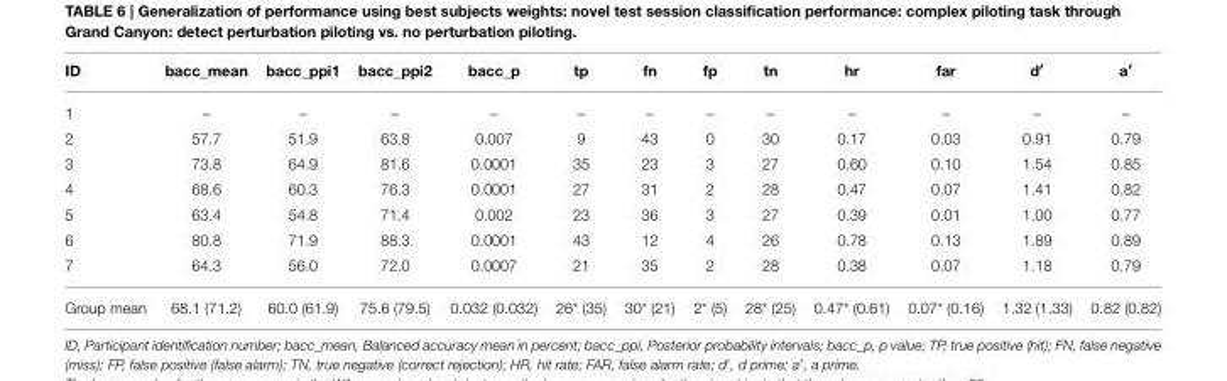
<table><thead><tr><td>ID</td><td>bacc_mean</td><td>bacc_ppi1</td><td>bacc_ppi2</td><td>bacc_p</td><td>tp</td><td>fn</td><td>fp</td><td>tn</td><td>hr</td><td>far</td><td>d′</td><td>a′</td></tr></thead><tbody><tr><td>1</td><td>–</td><td>–</td><td>–</td><td>–</td><td>–</td><td>–</td><td>–</td><td>–</td><td>–</td><td>–</td><td>–</td><td>–</td></tr><tr><td>2</td><td>57.7</td><td>51.9</td><td>63.8</td><td>0.007</td><td>9</td><td>43</td><td>0</td><td>30</td><td>0.17</td><td>0.03</td><td>0.91</td><td>0.79</td></tr><tr><td>3</td><td>73.8</td><td>64.9</td><td>81.6</td><td>0.0001</td><td>35</td><td>23</td><td>3</td><td>27</td><td>0.60</td><td>0.10</td><td>1.54</td><td>0.85</td></tr><tr><td>4</td><td>68.6</td><td>60.3</td><td>76.3</td><td>0.0001</td><td>27</td><td>31</td><td>2</td><td>28</td><td>0.47</td><td>0.07</td><td>1.41</td><td>0.82</td></tr><tr><td>5</td><td>63.4</td><td>54.8</td><td>71.4</td><td>0.002</td><td>23</td><td>36</td><td>3</td><td>27</td><td>0.39</td><td>0.01</td><td>1.00</td><td>0.77</td></tr><tr><td>6</td><td>80.8</td><td>71.9</td><td>88.3</td><td>0.0001</td><td>43</td><td>12</td><td>4</td><td>26</td><td>0.78</td><td>0.13</td><td>1.89</td><td>0.89</td></tr><tr><td>7</td><td>64.3</td><td>56.0</td><td>72.0</td><td>0.0007</td><td>21</td><td>35</td><td>2</td><td>28</td><td>0.38</td><td>0.07</td><td>1.18</td><td>0.79</td></tr><tr><td>Group mean</td><td>68.1 (71.2)</td><td>60.0 (61.9)</td><td>75.6 (79.5)</td><td>0.032 (0.032)</td><td>26* (35)</td><td>30* (21)</td><td>2* (5)</td><td>28* (25)</td><td>0.47* (0.61)</td><td>0.07* (0.16)</td><td>1.32 (1.33)</td><td>0.82 (0.82)</td></tr></tbody></table>